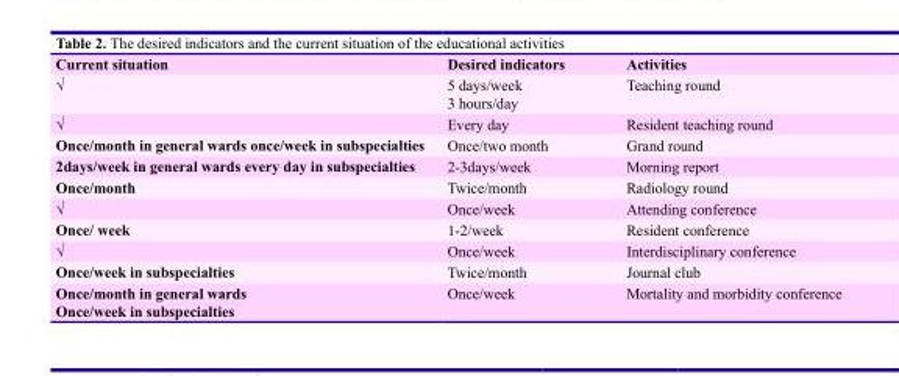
<table><thead><tr><td>Current situation</td><td>Desired indicators</td><td>Activities</td></tr></thead><tbody><tr><td>√</td><td>5 days/week 3 hours/day</td><td>Teaching round</td></tr><tr><td>√</td><td>Every day</td><td>Resident teaching round</td></tr><tr><td>Once/month in general wards once/week in subspecialties</td><td>Once/two month</td><td>Grand round</td></tr><tr><td>2days/week in general wards every day in subspecialties</td><td>2-3days/week</td><td>Morning report</td></tr><tr><td>Once/month</td><td>Twice/month</td><td>Radiology round</td></tr><tr><td>√</td><td>Once/week</td><td>Attending conference</td></tr><tr><td>Once/ week</td><td>1-2/week</td><td>Resident conference</td></tr><tr><td>√</td><td>Once/week</td><td>Interdisciplinary conference</td></tr><tr><td>Once/week in subspecialties</td><td>Twice/month</td><td>Journal club</td></tr><tr><td>Once/month in general wards Once/week in subspecialties</td><td>Once/week</td><td>Mortality and morbidity conference</td></tr></tbody></table>